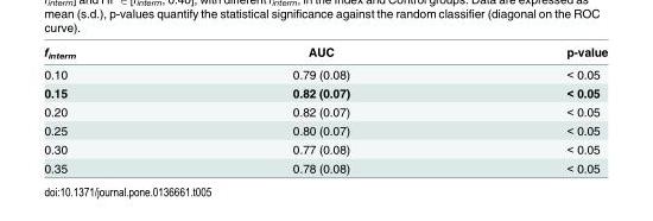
<table><thead><tr><td>f<sub>interm</sub></td><td>AUC</td><td>p-value</td></tr></thead><tbody><tr><td>0.10</td><td>0.79 (0.08)</td><td>&lt; 0.05</td></tr><tr><td>0.15</td><td>0.82 (0.07)</td><td>&lt; 0.05</td></tr><tr><td>0.20</td><td>0.82 (0.07)</td><td>&lt; 0.05</td></tr><tr><td>0.25</td><td>0.80 (0.07)</td><td>&lt; 0.05</td></tr><tr><td>0.30</td><td>0.77 (0.08)</td><td>&lt; 0.05</td></tr><tr><td>0.35</td><td>0.78 (0.08)</td><td>&lt; 0.05</td></tr></tbody></table>